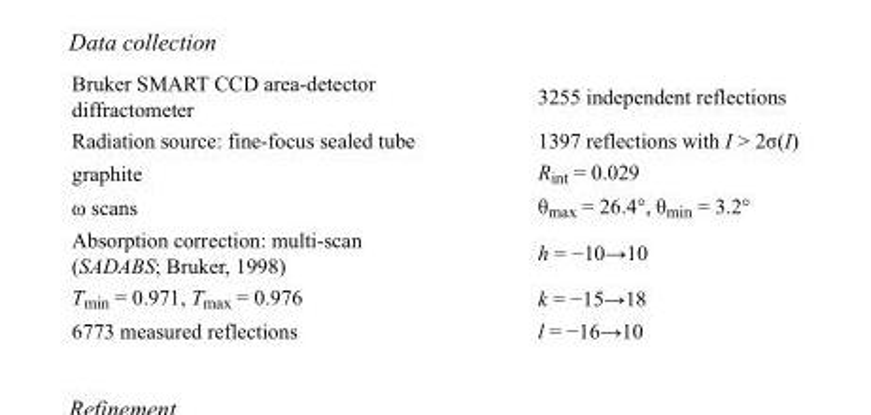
<table><tbody><tr><td>Bruker SMART CCD area-detector diffractometer</td><td>3255 independent reflections</td></tr><tr><td>Radiation source: fine-focus sealed tube</td><td>1397 reflections with I &gt; 2σ(I)</td></tr><tr><td>graphite</td><td>R<sub>int</sub> = 0.029</td></tr><tr><td>ω scans</td><td>θ<sub>max</sub> = 26.4°, θ<sub>min</sub> = 3.2°</td></tr><tr><td>Absorption correction: multi-scan (SADABS; Bruker, 1998)</td><td>h = −10→10</td></tr><tr><td>T<sub>min</sub> = 0.971, T<sub>max</sub> = 0.976</td><td>k = −15→18</td></tr><tr><td>6773 measured reflections</td><td>l = −16→10</td></tr></tbody></table>